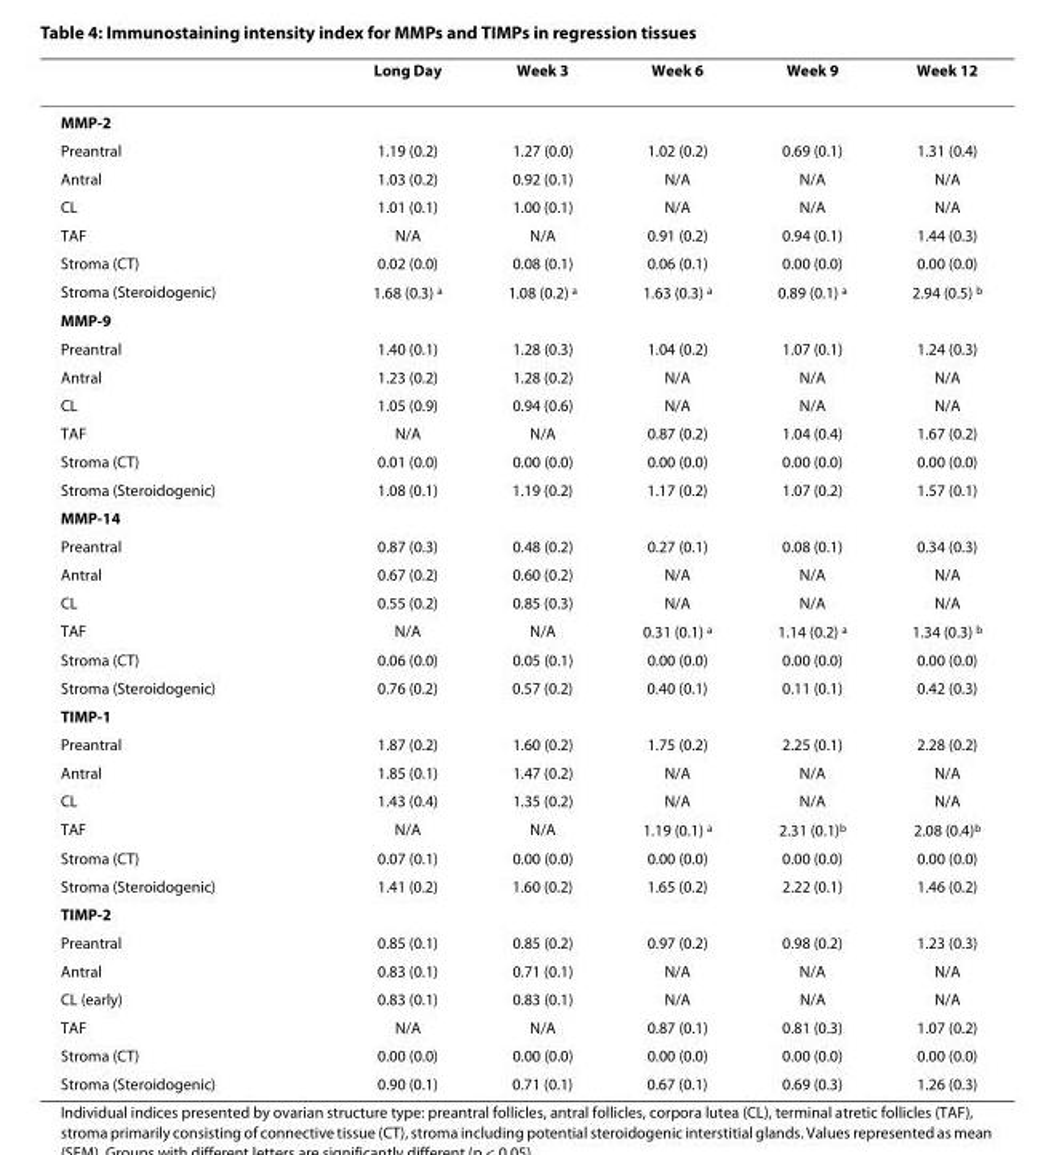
<table><thead><tr><td></td><td>Long Day</td><td>Week 3</td><td>Week 6</td><td>Week 9</td><td>Week 12</td></tr></thead><tbody><tr><td colspan="6">MMP-2</td></tr><tr><td>Preantral</td><td>1.19 (0.2)</td><td>1.27 (0.0)</td><td>1.02 (0.2)</td><td>0.69 (0.1)</td><td>1.31 (0.4)</td></tr><tr><td>Antral</td><td>1.03 (0.2)</td><td>0.92 (0.1)</td><td>N/A</td><td>N/A</td><td>N/A</td></tr><tr><td>CL</td><td>1.01 (0.1)</td><td>1.00 (0.1)</td><td>N/A</td><td>N/A</td><td>N/A</td></tr><tr><td>TAF</td><td>N/A</td><td>N/A</td><td>0.91 (0.2)</td><td>0.94 (0.1)</td><td>1.44 (0.3)</td></tr><tr><td>Stroma (CT)</td><td>0.02 (0.0)</td><td>0.08 (0.1)</td><td>0.06 (0.1)</td><td>0.00 (0.0)</td><td>0.00 (0.0)</td></tr><tr><td>Stroma (Steroidogenic)</td><td>1.68 (0.3) <sup>a</sup></td><td>1.08 (0.2) <sup>a</sup></td><td>1.63 (0.3) <sup>a</sup></td><td>0.89 (0.1) <sup>a</sup></td><td>2.94 (0.5) <sup>b</sup></td></tr><tr><td colspan="6">MMP-9</td></tr><tr><td>Preantral</td><td>1.40 (0.1)</td><td>1.28 (0.3)</td><td>1.04 (0.2)</td><td>1.07 (0.1)</td><td>1.24 (0.3)</td></tr><tr><td>Antral</td><td>1.23 (0.2)</td><td>1.28 (0.2)</td><td>N/A</td><td>N/A</td><td>N/A</td></tr><tr><td>CL</td><td>1.05 (0.9)</td><td>0.94 (0.6)</td><td>N/A</td><td>N/A</td><td>N/A</td></tr><tr><td>TAF</td><td>N/A</td><td>N/A</td><td>0.87 (0.2)</td><td>1.04 (0.4)</td><td>1.67 (0.2)</td></tr><tr><td>Stroma (CT)</td><td>0.01 (0.0)</td><td>0.00 (0.0)</td><td>0.00 (0.0)</td><td>0.00 (0.0)</td><td>0.00 (0.0)</td></tr><tr><td>Stroma (Steroidogenic)</td><td>1.08 (0.1)</td><td>1.19 (0.2)</td><td>1.17 (0.2)</td><td>1.07 (0.2)</td><td>1.57 (0.1)</td></tr><tr><td colspan="6">MMP-14</td></tr><tr><td>Preantral</td><td>0.87 (0.3)</td><td>0.48 (0.2)</td><td>0.27 (0.1)</td><td>0.08 (0.1)</td><td>0.34 (0.3)</td></tr><tr><td>Antral</td><td>0.67 (0.2)</td><td>0.60 (0.2)</td><td>N/A</td><td>N/A</td><td>N/A</td></tr><tr><td>CL</td><td>0.55 (0.2)</td><td>0.85 (0.3)</td><td>N/A</td><td>N/A</td><td>N/A</td></tr><tr><td>TAF</td><td>N/A</td><td>N/A</td><td>0.31 (0.1) <sup>a</sup></td><td>1.14 (0.2) <sup>a</sup></td><td>1.34 (0.3) <sup>b</sup></td></tr><tr><td>Stroma (CT)</td><td>0.06 (0.0)</td><td>0.05 (0.1)</td><td>0.00 (0.0)</td><td>0.00 (0.0)</td><td>0.00 (0.0)</td></tr><tr><td>Stroma (Steroidogenic)</td><td>0.76 (0.2)</td><td>0.57 (0.2)</td><td>0.40 (0.1)</td><td>0.11 (0.1)</td><td>0.42 (0.3)</td></tr><tr><td colspan="6">TIMP-1</td></tr><tr><td>Preantral</td><td>1.87 (0.2)</td><td>1.60 (0.2)</td><td>1.75 (0.2)</td><td>2.25 (0.1)</td><td>2.28 (0.2)</td></tr><tr><td>Antral</td><td>1.85 (0.1)</td><td>1.47 (0.2)</td><td>N/A</td><td>N/A</td><td>N/A</td></tr><tr><td>CL</td><td>1.43 (0.4)</td><td>1.35 (0.2)</td><td>N/A</td><td>N/A</td><td>N/A</td></tr><tr><td>TAF</td><td>N/A</td><td>N/A</td><td>1.19 (0.1) <sup>a</sup></td><td>2.31 (0.1)<sup>b</sup></td><td>2.08 (0.4)<sup>b</sup></td></tr><tr><td>Stroma (CT)</td><td>0.07 (0.1)</td><td>0.00 (0.0)</td><td>0.00 (0.0)</td><td>0.00 (0.0)</td><td>0.00 (0.0)</td></tr><tr><td>Stroma (Steroidogenic)</td><td>1.41 (0.2)</td><td>1.60 (0.2)</td><td>1.65 (0.2)</td><td>2.22 (0.1)</td><td>1.46 (0.2)</td></tr><tr><td colspan="6">TIMP-2</td></tr><tr><td>Preantral</td><td>0.85 (0.1)</td><td>0.85 (0.2)</td><td>0.97 (0.2)</td><td>0.98 (0.2)</td><td>1.23 (0.3)</td></tr><tr><td>Antral</td><td>0.83 (0.1)</td><td>0.71 (0.1)</td><td>N/A</td><td>N/A</td><td>N/A</td></tr><tr><td>CL (early)</td><td>0.83 (0.1)</td><td>0.83 (0.1)</td><td>N/A</td><td>N/A</td><td>N/A</td></tr><tr><td>TAF</td><td>N/A</td><td>N/A</td><td>0.87 (0.1)</td><td>0.81 (0.3)</td><td>1.07 (0.2)</td></tr><tr><td>Stroma (CT)</td><td>0.00 (0.0)</td><td>0.00 (0.0)</td><td>0.00 (0.0)</td><td>0.00 (0.0)</td><td>0.00 (0.0)</td></tr><tr><td>Stroma (Steroidogenic)</td><td>0.90 (0.1)</td><td>0.71 (0.1)</td><td>0.67 (0.1)</td><td>0.69 (0.3)</td><td>1.26 (0.3)</td></tr></tbody></table>